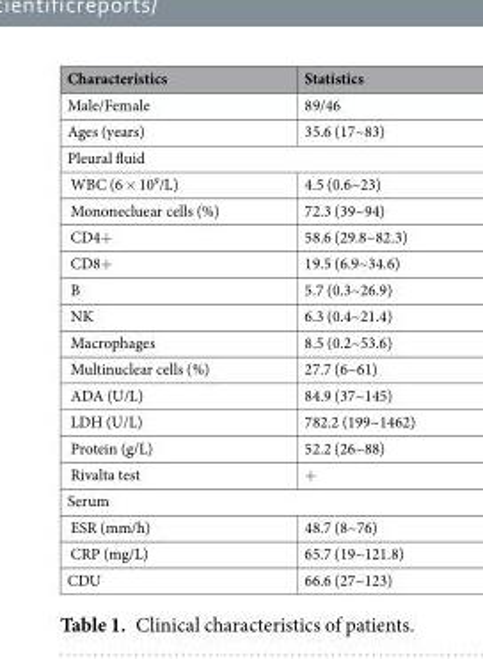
<table><thead><tr><td>Characteristics</td><td>Statistics</td></tr></thead><tbody><tr><td>Male/Female</td><td>89/46</td></tr><tr><td>Ages (years)</td><td>35.6 (17~83)</td></tr><tr><td colspan="2">Pleural fluid</td></tr><tr><td>WBC (6 × 10<sup>9</sup>/L)</td><td>4.5 (0.6~23)</td></tr><tr><td>Mononecluear cells (%)</td><td>72.3 (39~94)</td></tr><tr><td>CD4+</td><td>58.6 (29.8~82.3)</td></tr><tr><td>CD8+</td><td>19.5 (6.9~34.6)</td></tr><tr><td>B</td><td>5.7 (0.3~26.9)</td></tr><tr><td>NK</td><td>6.3 (0.4~21.4)</td></tr><tr><td>Macrophages</td><td>8.5 (0.2~53.6)</td></tr><tr><td>Multinuclear cells (%)</td><td>27.7 (6~61)</td></tr><tr><td>ADA (U/L)</td><td>84.9 (37~145)</td></tr><tr><td>LDH (U/L)</td><td>782.2 (199~1462)</td></tr><tr><td>Protein (g/L)</td><td>52.2 (26~88)</td></tr><tr><td>Rivalta test</td><td>+</td></tr><tr><td colspan="2">Serum</td></tr><tr><td>ESR (mm/h)</td><td>48.7 (8~76)</td></tr><tr><td>CRP (mg/L)</td><td>65.7 (19~121.8)</td></tr><tr><td>CDU</td><td>66.6 (27~123)</td></tr></tbody></table>